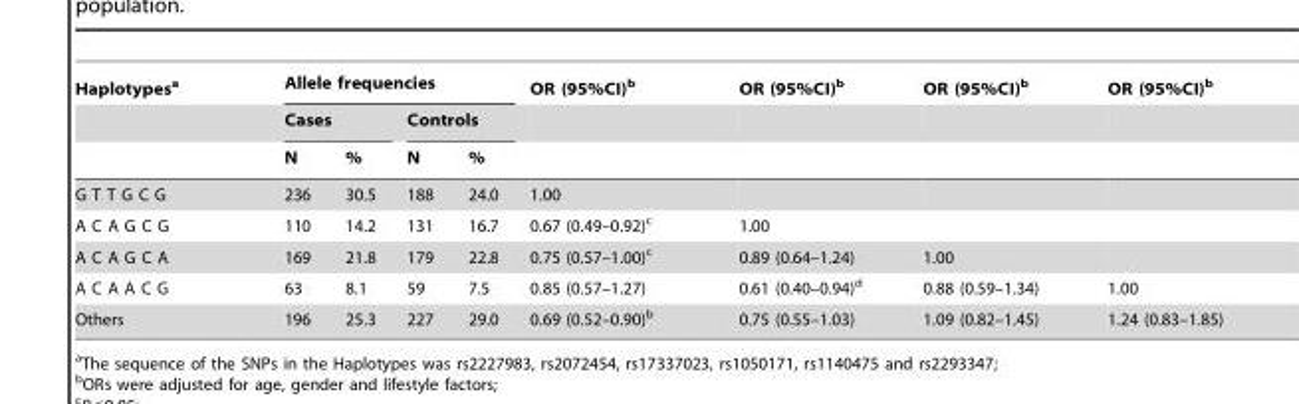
<table><thead><tr><td rowspan="3">Haplotypes<sup>a</sup></td><td colspan="4">Allele frequencies</td><td rowspan="3">OR (95%CI)<sup>b</sup></td><td rowspan="3">OR (95%CI)<sup>b</sup></td><td rowspan="3">OR (95%CI)<sup>b</sup></td><td rowspan="3">OR (95%CI)<sup>b</sup></td></tr><tr><td colspan="2">Cases</td><td colspan="2">Controls</td></tr><tr><td>N</td><td>%</td><td>N</td><td>%</td></tr></thead><tbody><tr><td>G T T G C G</td><td>236</td><td>30.5</td><td>188</td><td>24.0</td><td>1.00</td><td></td><td></td><td></td></tr><tr><td>A C A G C G</td><td>110</td><td>14.2</td><td>131</td><td>16.7</td><td>0.67 (0.49–0.92)<sup>c</sup></td><td>1.00</td><td></td><td></td></tr><tr><td>A C A G C A</td><td>169</td><td>21.8</td><td>179</td><td>22.8</td><td>0.75 (0.57–1.00)<sup>c</sup></td><td>0.89 (0.64–1.24)</td><td>1.00</td><td></td></tr><tr><td>A C A A C G</td><td>63</td><td>8.1</td><td>59</td><td>7.5</td><td>0.85 (0.57–1.27)</td><td>0.61 (0.40–0.94)<sup>d</sup></td><td>0.88 (0.59–1.34)</td><td>1.00</td></tr><tr><td>Others</td><td>196</td><td>25.3</td><td>227</td><td>29.0</td><td>0.69 (0.52–0.90)<sup>b</sup></td><td>0.75 (0.55–1.03)</td><td>1.09 (0.82–1.45)</td><td>1.24 (0.83–1.85)</td></tr></tbody></table>